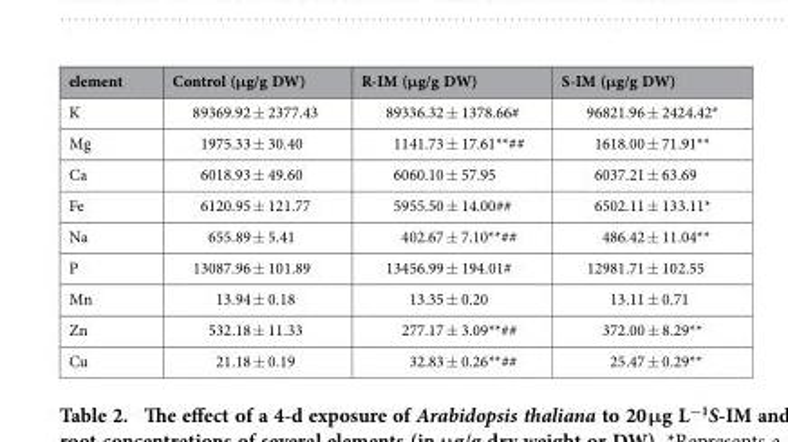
<table><thead><tr><td>element</td><td>Control (μg/g DW)</td><td>R-IM (μg/g DW)</td><td>S-IM (μg/g DW)</td></tr></thead><tbody><tr><td>K</td><td>89369.92 ± 2377.43</td><td>89336.32 ± 1378.66#</td><td>96821.96 ± 2424.42*</td></tr><tr><td>Mg</td><td>1975.33 ± 30.40</td><td>1141.73 ± 17.61**##</td><td>1618.00 ± 71.91**</td></tr><tr><td>Ca</td><td>6018.93 ± 49.60</td><td>6060.10 ± 57.95</td><td>6037.21 ± 63.69</td></tr><tr><td>Fe</td><td>6120.95 ± 121.77</td><td>5955.50 ± 14.00##</td><td>6502.11 ± 133.11*</td></tr><tr><td>Na</td><td>655.89 ± 5.41</td><td>402.67 ± 7.10**##</td><td>486.42 ± 11.04**</td></tr><tr><td>P</td><td>13087.96 ± 101.89</td><td>13456.99 ± 194.01#</td><td>12981.71 ± 102.55</td></tr><tr><td>Mn</td><td>13.94 ± 0.18</td><td>13.35 ± 0.20</td><td>13.11 ± 0.71</td></tr><tr><td>Zn</td><td>532.18 ± 11.33</td><td>277.17 ± 3.09**##</td><td>372.00 ± 8.29**</td></tr><tr><td>Cu</td><td>21.18 ± 0.19</td><td>32.83 ± 0.26**##</td><td>25.47 ± 0.29**</td></tr></tbody></table>